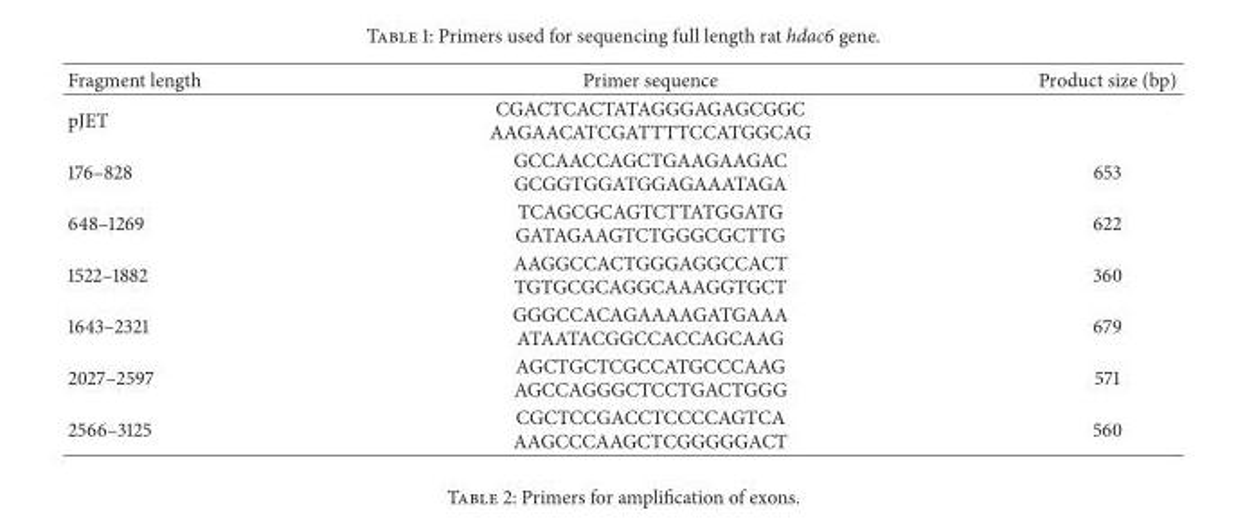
<table><thead><tr><td>Fragment length</td><td>Primer sequence</td><td>Product size (bp)</td></tr></thead><tbody><tr><td>pJET</td><td>CGACTCACTATAGGGAGAGCGGC AAGAACATCGATTTTCCATGGCAG</td><td></td></tr><tr><td>176–828</td><td>GCCAACCAGCTGAAGAAGAC GCGGTGGATGGAGAAATAGA</td><td>653</td></tr><tr><td>648–1269</td><td>TCAGCGCAGTCTTATGGATG GATAGAAGTCTGGGCGCTTG</td><td>622</td></tr><tr><td>1522–1882</td><td>AAGGCCACTGGGAGGCCACT TGTGCGCAGGCAAAGGTGCT</td><td>360</td></tr><tr><td>1643–2321</td><td>GGGCCACAGAAAAGATGAAA ATAATACGGCCACCAGCAAG</td><td>679</td></tr><tr><td>2027–2597</td><td>AGCTGCTCGCCATGCCCAAG AGCCAGGGCTCCTGACTGGG</td><td>571</td></tr><tr><td>2566–3125</td><td>CGCTCCGACCTCCCCAGTCA AAGCCCAAGCTCGGGGGACT</td><td>560</td></tr></tbody></table>